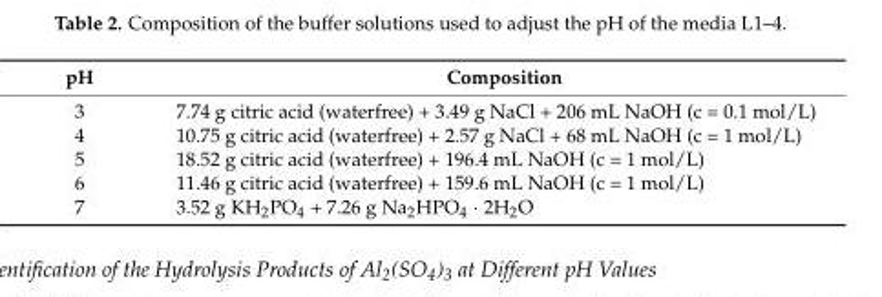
<table><thead><tr><td>pH</td><td>Composition</td></tr></thead><tbody><tr><td>3</td><td>7.74 g citric acid (waterfree) + 3.49 g NaCl + 206 mL NaOH (c = 0.1 mol/L)</td></tr><tr><td>4</td><td>10.75 g citric acid (waterfree) + 2.57 g NaCl + 68 mL NaOH (c = 1 mol/L)</td></tr><tr><td>5</td><td>18.52 g citric acid (waterfree) + 196.4 mL NaOH (c = 1 mol/L)</td></tr><tr><td>6</td><td>11.46 g citric acid (waterfree) + 159.6 mL NaOH (c = 1 mol/L)</td></tr><tr><td>7</td><td>3.52 g KH<sub>2</sub>PO<sub>4</sub> + 7.26 g Na<sub>2</sub>HPO<sub>4</sub> · 2H<sub>2</sub>O</td></tr></tbody></table>